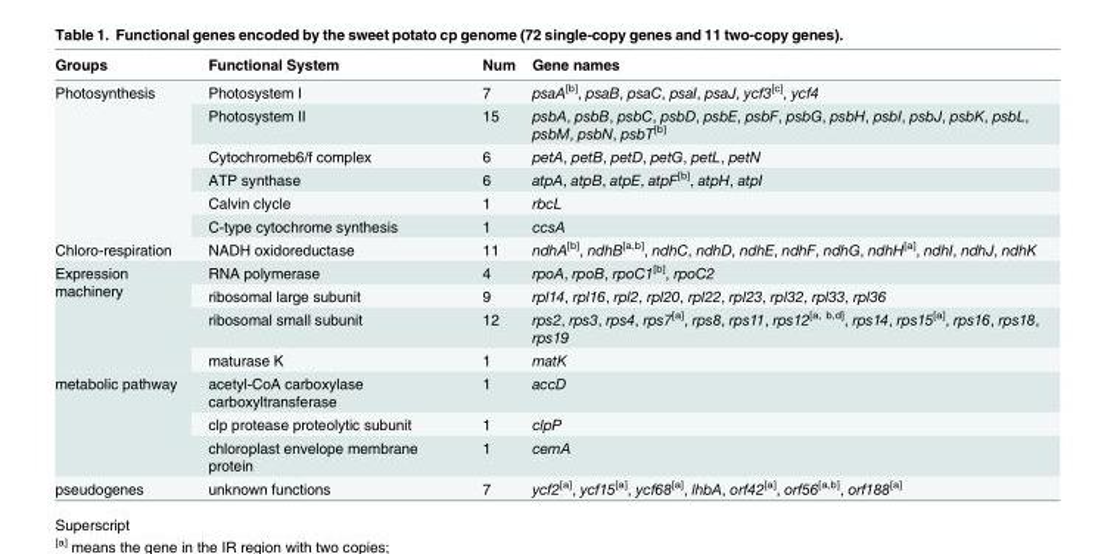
<table><thead><tr><td>Groups</td><td>Functional System</td><td>Num</td><td>Gene names</td></tr></thead><tbody><tr><td rowspan="6">Photosynthesis</td><td>Photosystem I</td><td>7</td><td>psaA<sup>[b]</sup>, psaB, psaC, psaI, psaJ, ycf3<sup>[c]</sup>, ycf4</td></tr><tr><td>Photosystem II</td><td>15</td><td>psbA, psbB, psbC, psbD, psbE, psbF, psbG, psbH, psbI, psbJ, psbK, psbL, psbM, psbN, psbT<sup>[b]</sup></td></tr><tr><td>Cytochromeb6/f complex</td><td>6</td><td>petA, petB, petD, petG, petL, petN</td></tr><tr><td>ATP synthase</td><td>6</td><td>atpA, atpB, atpE, atpF<sup>[b]</sup>, atpH, atpI</td></tr><tr><td>Calvin clycle</td><td>1</td><td>rbcL</td></tr><tr><td>C-type cytochrome synthesis</td><td>1</td><td>ccsA</td></tr><tr><td>Chloro-respiration</td><td>NADH oxidoreductase</td><td>11</td><td>ndhA<sup>[b]</sup>, ndhB<sup>[a,b]</sup>, ndhC, ndhD, ndhE, ndhF, ndhG, ndhH<sup>[a]</sup>, ndhI, ndhJ, ndhK</td></tr><tr><td rowspan="4">Expression machinery</td><td>RNA polymerase</td><td>4</td><td>rpoA, rpoB, rpoC1<sup>[b]</sup>, rpoC2</td></tr><tr><td>ribosomal large subunit</td><td>9</td><td>rpl14, rpl16, rpl2, rpl20, rpl22, rpl23, rpl32, rpl33, rpl36</td></tr><tr><td>ribosomal small subunit</td><td>12</td><td>rps2, rps3, rps4, rps7<sup>[a]</sup>, rps8, rps11, rps12<sup>[a, b,d]</sup>, rps14, rps15<sup>[a]</sup>, rps16, rps18, rps19</td></tr><tr><td>maturase K</td><td>1</td><td>matK</td></tr><tr><td rowspan="3">metabolic pathway</td><td>acetyl-CoA carboxylase carboxyltransferase</td><td>1</td><td>accD</td></tr><tr><td>clp protease proteolytic subunit</td><td>1</td><td>clpP</td></tr><tr><td>chloroplast envelope membrane protein</td><td>1</td><td>cemA</td></tr><tr><td>pseudogenes</td><td>unknown functions</td><td>7</td><td>ycf2<sup>[a]</sup>, ycf15<sup>[a]</sup>, ycf68<sup>[a]</sup>, lhbA, orf42<sup>[a]</sup>, orf56<sup>[a,b]</sup>, orf188<sup>[a]</sup></td></tr></tbody></table>